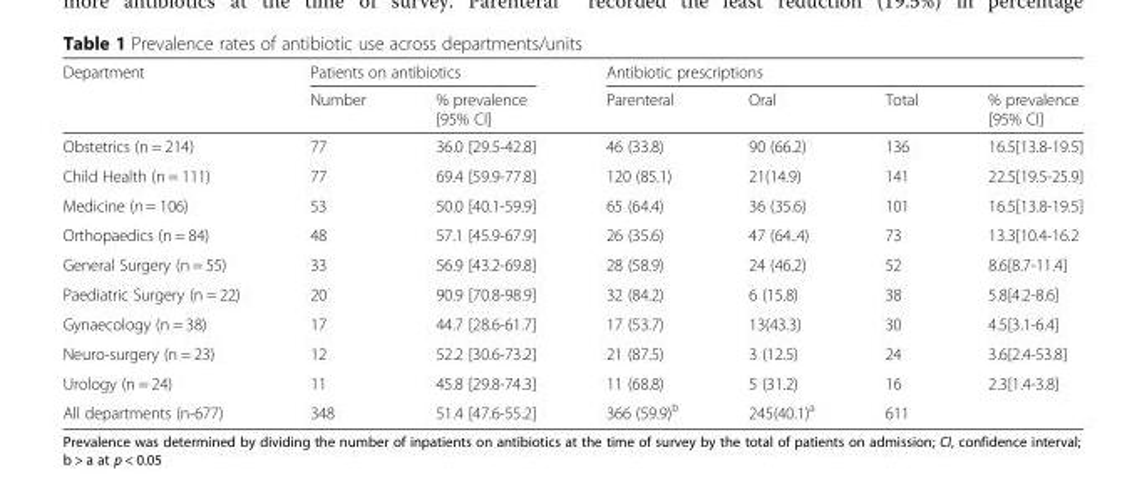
<table><thead><tr><td rowspan="2">Department</td><td colspan="2">Patients on antibiotics</td><td colspan="4">Antibiotic prescriptions</td></tr><tr><td>Number</td><td>% prevalence [95% CI]</td><td>Parenteral</td><td>Oral</td><td>Total</td><td>% prevalence [95% CI]</td></tr></thead><tbody><tr><td>Obstetrics (n = 214)</td><td>77</td><td>36.0 [29.5-42.8]</td><td>46 (33.8)</td><td>90 (66.2)</td><td>136</td><td>16.5[13.8-19.5]</td></tr><tr><td>Child Health (n = 111)</td><td>77</td><td>69.4 [59.9-77.8]</td><td>120 (85.1)</td><td>21(14.9)</td><td>141</td><td>22.5[19.5-25.9]</td></tr><tr><td>Medicine (n = 106)</td><td>53</td><td>50.0 [40.1-59.9]</td><td>65 (64.4)</td><td>36 (35.6)</td><td>101</td><td>16.5[13.8-19.5]</td></tr><tr><td>Orthopaedics (n = 84)</td><td>48</td><td>57.1 [45.9-67.9]</td><td>26 (35.6)</td><td>47 (64..4)</td><td>73</td><td>13.3[10.4-16.2</td></tr><tr><td>General Surgery (n = 55)</td><td>33</td><td>56.9 [43.2-69.8]</td><td>28 (58.9)</td><td>24 (46.2)</td><td>52</td><td>8.6[8.7-11.4]</td></tr><tr><td>Paediatric Surgery (n = 22)</td><td>20</td><td>90.9 [70.8-98.9]</td><td>32 (84.2)</td><td>6 (15.8)</td><td>38</td><td>5.8[4.2-8.6]</td></tr><tr><td>Gynaecology (n = 38)</td><td>17</td><td>44.7 [28.6-61.7]</td><td>17 (53.7)</td><td>13(43.3)</td><td>30</td><td>4.5[3.1-6.4]</td></tr><tr><td>Neuro-surgery (n = 23)</td><td>12</td><td>52.2 [30.6-73.2]</td><td>21 (87.5)</td><td>3 (12.5)</td><td>24</td><td>3.6[2.4-53.8]</td></tr><tr><td>Urology (n = 24)</td><td>11</td><td>45.8 [29.8-74.3]</td><td>11 (68.8)</td><td>5 (31.2)</td><td>16</td><td>2.3[1.4-3.8]</td></tr><tr><td>All departments (n-677)</td><td>348</td><td>51.4 [47.6-55.2]</td><td>366 (59.9)<sup>b</sup></td><td>245(40.1)<sup>a</sup></td><td>611</td><td></td></tr></tbody></table>